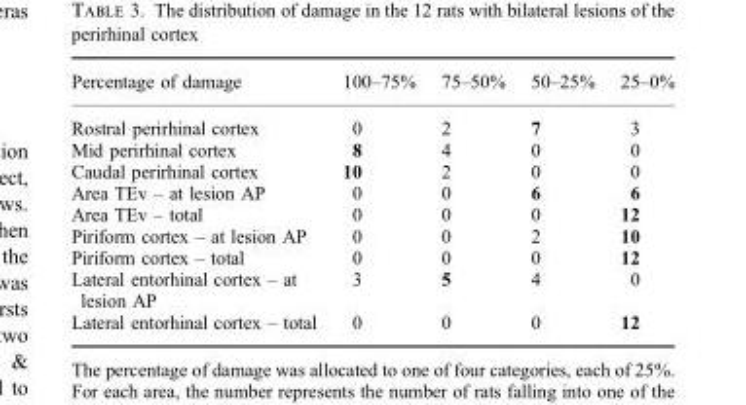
<table><thead><tr><td>Percentage of damage</td><td>100–75%</td><td>75–50%</td><td>50–25%</td><td>25–0%</td></tr></thead><tbody><tr><td>Rostral perirhinal cortex</td><td>0</td><td>2</td><td>7</td><td>3</td></tr><tr><td>Mid perirhinal cortex</td><td>8</td><td>4</td><td>0</td><td>0</td></tr><tr><td>Caudal perirhinal cortex</td><td>10</td><td>2</td><td>0</td><td>0</td></tr><tr><td>Area TEv – at lesion AP</td><td>0</td><td>0</td><td>6</td><td>6</td></tr><tr><td>Area TEv – total</td><td>0</td><td>0</td><td>0</td><td>12</td></tr><tr><td>Piriform cortex – at lesion AP</td><td>0</td><td>0</td><td>2</td><td>10</td></tr><tr><td>Piriform cortex – total</td><td>0</td><td>0</td><td>0</td><td>12</td></tr><tr><td>Lateral entorhinal cortex – at lesion AP</td><td>3</td><td>5</td><td>4</td><td>0</td></tr><tr><td>Lateral entorhinal cortex – total</td><td>0</td><td>0</td><td>0</td><td>12</td></tr></tbody></table>